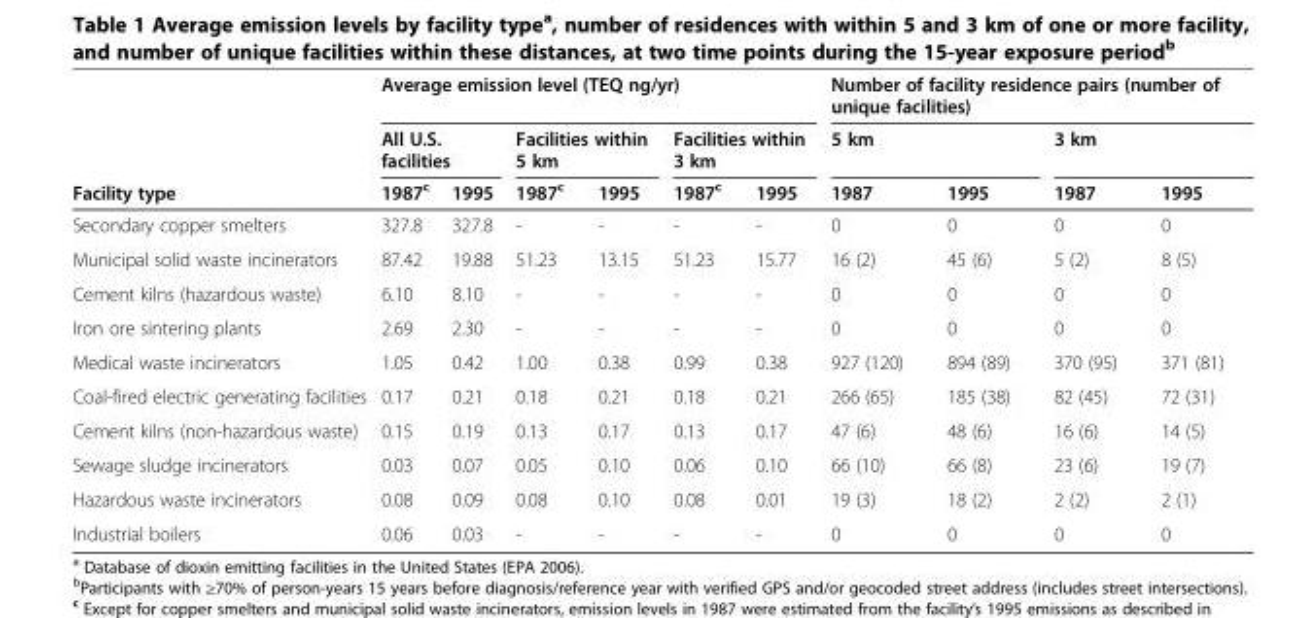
<table><thead><tr><td rowspan="3">Facility type</td><td colspan="6">Average emission level (TEQ ng/yr)</td><td colspan="4">Number of facility residence pairs (number of unique facilities)</td></tr><tr><td colspan="2">All U.S. facilities</td><td colspan="2">Facilities within 5 km</td><td colspan="2">Facilities within 3 km</td><td colspan="2">5 km</td><td colspan="2">3 km</td></tr><tr><td>1987<sup>c</sup></td><td>1995</td><td>1987<sup>c</sup></td><td>1995</td><td>1987<sup>c</sup></td><td>1995</td><td>1987</td><td>1995</td><td>1987</td><td>1995</td></tr></thead><tbody><tr><td>Secondary copper smelters</td><td>327.8</td><td>327.8</td><td>-</td><td>-</td><td>-</td><td>-</td><td>0</td><td>0</td><td>0</td><td>0</td></tr><tr><td>Municipal solid waste incinerators</td><td>87.42</td><td>19.88</td><td>51.23</td><td>13.15</td><td>51.23</td><td>15.77</td><td>16 (2)</td><td>45 (6)</td><td>5 (2)</td><td>8 (5)</td></tr><tr><td>Cement kilns (hazardous waste)</td><td>6.10</td><td>8.10</td><td>-</td><td>-</td><td>-</td><td>-</td><td>0</td><td>0</td><td>0</td><td>0</td></tr><tr><td>Iron ore sintering plants</td><td>2.69</td><td>2.30</td><td>-</td><td>-</td><td>-</td><td>-</td><td>0</td><td>0</td><td>0</td><td>0</td></tr><tr><td>Medical waste incinerators</td><td>1.05</td><td>0.42</td><td>1.00</td><td>0.38</td><td>0.99</td><td>0.38</td><td>927 (120)</td><td>894 (89)</td><td>370 (95)</td><td>371 (81)</td></tr><tr><td>Coal-fired electric generating facilities</td><td>0.17</td><td>0.21</td><td>0.18</td><td>0.21</td><td>0.18</td><td>0.21</td><td>266 (65)</td><td>185 (38)</td><td>82 (45)</td><td>72 (31)</td></tr><tr><td>Cement kilns (non-hazardous waste)</td><td>0.15</td><td>0.19</td><td>0.13</td><td>0.17</td><td>0.13</td><td>0.17</td><td>47 (6)</td><td>48 (6)</td><td>16 (6)</td><td>14 (5)</td></tr><tr><td>Sewage sludge incinerators</td><td>0.03</td><td>0.07</td><td>0.05</td><td>0.10</td><td>0.06</td><td>0.10</td><td>66 (10)</td><td>66 (8)</td><td>23 (6)</td><td>19 (7)</td></tr><tr><td>Hazardous waste incinerators</td><td>0.08</td><td>0.09</td><td>0.08</td><td>0.10</td><td>0.08</td><td>0.01</td><td>19 (3)</td><td>18 (2)</td><td>2 (2)</td><td>2 (1)</td></tr><tr><td>Industrial boilers</td><td>0.06</td><td>0.03</td><td>-</td><td>-</td><td>-</td><td>-</td><td>0</td><td>0</td><td>0</td><td>0</td></tr></tbody></table>